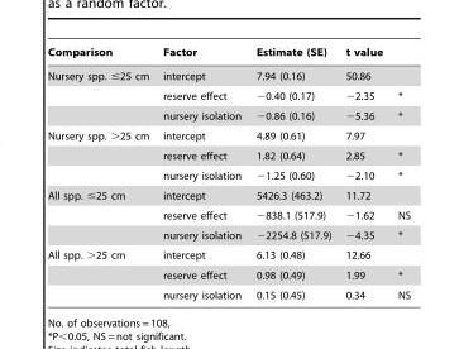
<table><thead><tr><td>Comparison</td><td>Factor</td><td>Estimate (SE)</td><td>t value</td><td></td></tr></thead><tbody><tr><td rowspan="3">Nursery spp. ≤25 cm</td><td>intercept</td><td>7.94 (0.16)</td><td>50.86</td><td></td></tr><tr><td>reserve effect</td><td>−0.40 (0.17)</td><td>−2.35</td><td>*</td></tr><tr><td>nursery isolation</td><td>−0.86 (0.16)</td><td>−5.36</td><td>*</td></tr><tr><td rowspan="3">Nursery spp. &gt;25 cm</td><td>intercept</td><td>4.89 (0.61)</td><td>7.97</td><td></td></tr><tr><td>reserve effect</td><td>1.82 (0.64)</td><td>2.85</td><td>*</td></tr><tr><td>nursery isolation</td><td>−1.25 (0.60)</td><td>−2.10</td><td>*</td></tr><tr><td rowspan="3">All spp. ≤25 cm</td><td>intercept</td><td>5426.3 (463.2)</td><td>11.72</td><td></td></tr><tr><td>reserve effect</td><td>−838.1 (517.9)</td><td>−1.62</td><td>NS</td></tr><tr><td>nursery isolation</td><td>−2254.8 (517.9)</td><td>−4.35</td><td>*</td></tr><tr><td rowspan="3">All spp. &gt;25 cm</td><td>intercept</td><td>6.13 (0.48)</td><td>12.66</td><td></td></tr><tr><td>reserve effect</td><td>0.98 (0.49)</td><td>1.99</td><td>*</td></tr><tr><td>nursery isolation</td><td>0.15 (0.45)</td><td>0.34</td><td>NS</td></tr></tbody></table>